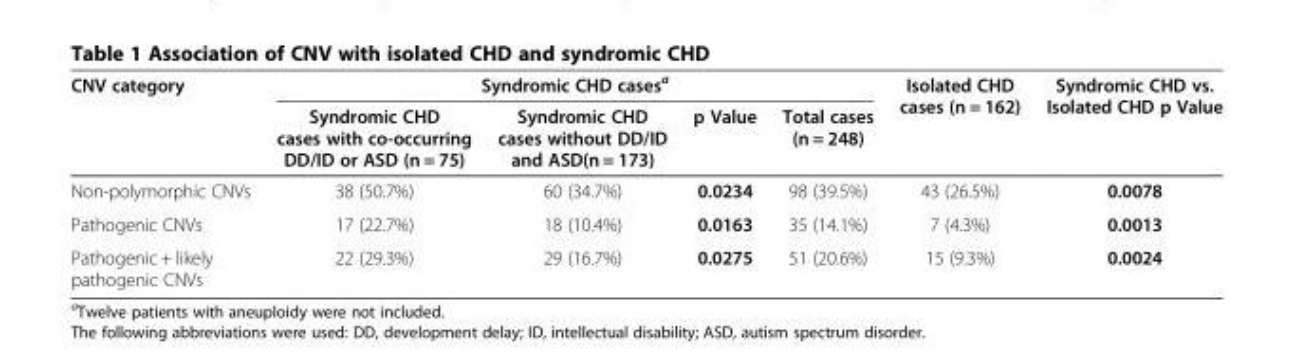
<table><thead><tr><td rowspan="2">CNV category</td><td colspan="4">Syndromic CHD cases<sup>a</sup></td><td rowspan="2">Isolated CHD cases (n = 162)</td><td rowspan="2">Syndromic CHD vs. Isolated CHD p Value</td></tr><tr><td>Syndromic CHD cases with co-occurring DD/ID or ASD (n = 75)</td><td>Syndromic CHD cases without DD/ID and ASD(n = 173)</td><td>p Value</td><td>Total cases (n = 248)</td></tr></thead><tbody><tr><td>Non-polymorphic CNVs</td><td>38 (50.7%)</td><td>60 (34.7%)</td><td>0.0234</td><td>98 (39.5%)</td><td>43 (26.5%)</td><td>0.0078</td></tr><tr><td>Pathogenic CNVs</td><td>17 (22.7%)</td><td>18 (10.4%)</td><td>0.0163</td><td>35 (14.1%)</td><td>7 (4.3%)</td><td>0.0013</td></tr><tr><td>Pathogenic + likely pathogenic CNVs</td><td>22 (29.3%)</td><td>29 (16.7%)</td><td>0.0275</td><td>51 (20.6%)</td><td>15 (9.3%)</td><td>0.0024</td></tr></tbody></table>